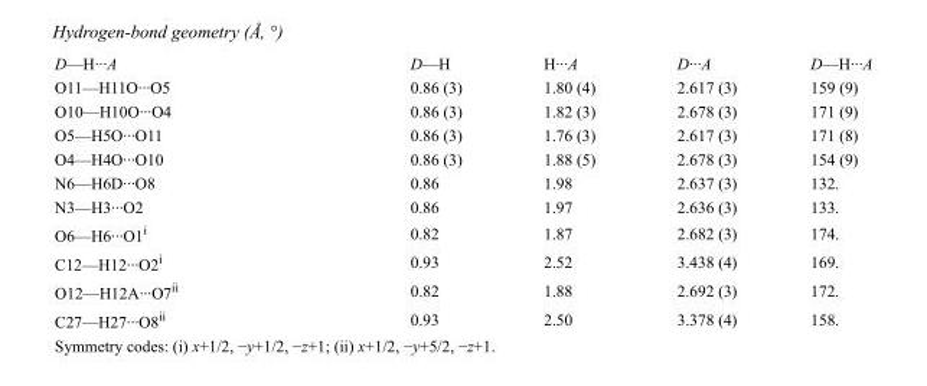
<table><tbody><tr><td>D—H···A</td><td>D—H</td><td>H···A</td><td>D···A</td><td>D—H···A</td></tr><tr><td>O11—H11O···O5</td><td>0.86 (3)</td><td>1.80 (4)</td><td>2.617 (3)</td><td>159 (9)</td></tr><tr><td>O10—H10O···O4</td><td>0.86 (3)</td><td>1.82 (3)</td><td>2.678 (3)</td><td>171 (9)</td></tr><tr><td>O5—H5O···O11</td><td>0.86 (3)</td><td>1.76 (3)</td><td>2.617 (3)</td><td>171 (8)</td></tr><tr><td>O4—H4O···O10</td><td>0.86 (3)</td><td>1.88 (5)</td><td>2.678 (3)</td><td>154 (9)</td></tr><tr><td>N6—H6D···O8</td><td>0.86</td><td>1.98</td><td>2.637 (3)</td><td>132.</td></tr><tr><td>N3—H3···O2</td><td>0.86</td><td>1.97</td><td>2.636 (3)</td><td>133.</td></tr><tr><td>O6—H6···O1<sup>i</sup></td><td>0.82</td><td>1.87</td><td>2.682 (3)</td><td>174.</td></tr><tr><td>C12—H12···O2<sup>i</sup></td><td>0.93</td><td>2.52</td><td>3.438 (4)</td><td>169.</td></tr><tr><td>O12—H12A···O7<sup>ii</sup></td><td>0.82</td><td>1.88</td><td>2.692 (3)</td><td>172.</td></tr><tr><td>C27—H27···O8<sup>ii</sup></td><td>0.93</td><td>2.50</td><td>3.378 (4)</td><td>158.</td></tr></tbody></table>